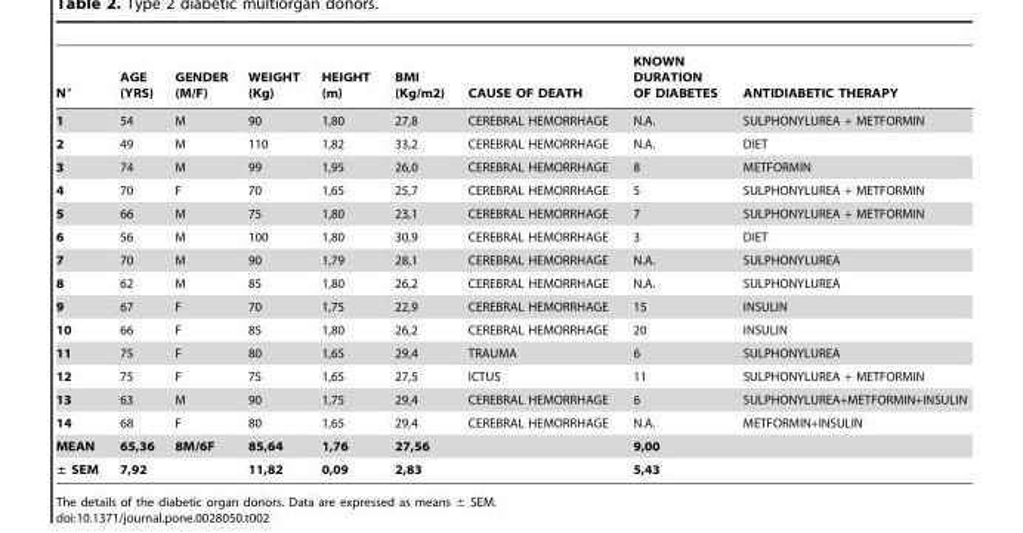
<table><thead><tr><td>N°</td><td>AGE (YRS)</td><td>GENDER (M/F)</td><td>WEIGHT (Kg)</td><td>HEIGHT (m)</td><td>BMI (Kg/m2)</td><td>CAUSE OF DEATH</td><td>KNOWN DURATION OF DIABETES</td><td>ANTIDIABETIC THERAPY</td></tr></thead><tbody><tr><td>1</td><td>54</td><td>M</td><td>90</td><td>1,80</td><td>27,8</td><td>CEREBRAL HEMORRHAGE</td><td>N.A.</td><td>SULPHONYLUREA + METFORMIN</td></tr><tr><td>2</td><td>49</td><td>M</td><td>110</td><td>1,82</td><td>33,2</td><td>CEREBRAL HEMORRHAGE</td><td>N.A.</td><td>DIET</td></tr><tr><td>3</td><td>74</td><td>M</td><td>99</td><td>1,95</td><td>26,0</td><td>CEREBRAL HEMORRHAGE</td><td>8</td><td>METFORMIN</td></tr><tr><td>4</td><td>70</td><td>F</td><td>70</td><td>1,65</td><td>25,7</td><td>CEREBRAL HEMORRHAGE</td><td>5</td><td>SULPHONYLUREA + METFORMIN</td></tr><tr><td>5</td><td>66</td><td>M</td><td>75</td><td>1,80</td><td>23,1</td><td>CEREBRAL HEMORRHAGE</td><td>7</td><td>SULPHONYLUREA + METFORMIN</td></tr><tr><td>6</td><td>56</td><td>M</td><td>100</td><td>1,80</td><td>30,9</td><td>CEREBRAL HEMORRHAGE</td><td>3</td><td>DIET</td></tr><tr><td>7</td><td>70</td><td>M</td><td>90</td><td>1,79</td><td>28,1</td><td>CEREBRAL HEMORRHAGE</td><td>N.A.</td><td>SULPHONYLUREA</td></tr><tr><td>8</td><td>62</td><td>M</td><td>85</td><td>1,80</td><td>26,2</td><td>CEREBRAL HEMORRHAGE</td><td>N.A.</td><td>SULPHONYLUREA</td></tr><tr><td>9</td><td>67</td><td>F</td><td>70</td><td>1,75</td><td>22,9</td><td>CEREBRAL HEMORRHAGE</td><td>15</td><td>INSULIN</td></tr><tr><td>10</td><td>66</td><td>F</td><td>85</td><td>1,80</td><td>26,2</td><td>CEREBRAL HEMORRHAGE</td><td>20</td><td>INSULIN</td></tr><tr><td>11</td><td>75</td><td>F</td><td>80</td><td>1,65</td><td>29,4</td><td>TRAUMA</td><td>6</td><td>SULPHONYLUREA</td></tr><tr><td>12</td><td>75</td><td>F</td><td>75</td><td>1,65</td><td>27,5</td><td>ICTUS</td><td>11</td><td>SULPHONYLUREA + METFORMIN</td></tr><tr><td>13</td><td>63</td><td>M</td><td>90</td><td>1,75</td><td>29,4</td><td>CEREBRAL HEMORRHAGE</td><td>6</td><td>SULPHONYLUREA+METFORMIN+INSULIN</td></tr><tr><td>14</td><td>68</td><td>F</td><td>80</td><td>1,65</td><td>29,4</td><td>CEREBRAL HEMORRHAGE</td><td>N.A.</td><td>METFORMIN+INSULIN</td></tr><tr><td>MEAN</td><td>65,36</td><td>8M/6F</td><td>85,64</td><td>1,76</td><td>27,56</td><td></td><td>9,00</td><td></td></tr><tr><td>± SEM</td><td>7,92</td><td></td><td>11,82</td><td>0,09</td><td>2,83</td><td></td><td>5,43</td><td></td></tr></tbody></table>